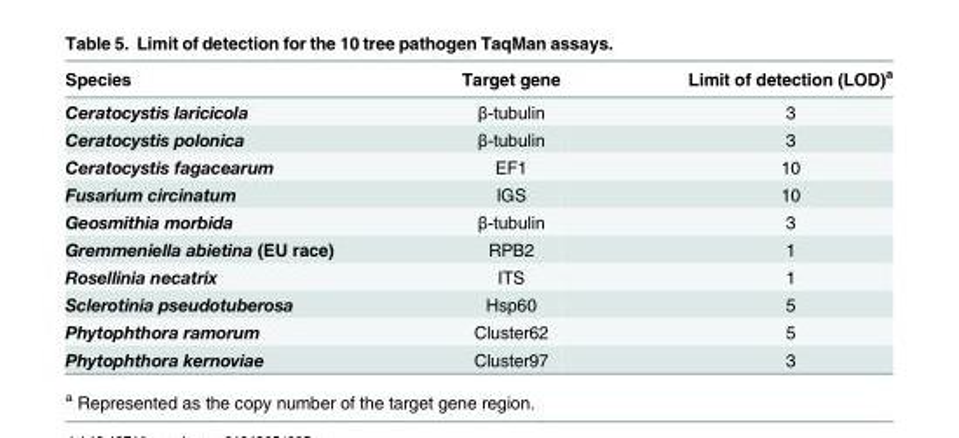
<table><thead><tr><td>Species</td><td>Target gene</td><td>Limit of detection (LOD)<sup>a</sup></td></tr></thead><tbody><tr><td>Ceratocystis laricicola</td><td>β-tubulin</td><td>3</td></tr><tr><td>Ceratocystis polonica</td><td>β-tubulin</td><td>3</td></tr><tr><td>Ceratocystis fagacearum</td><td>EF1</td><td>10</td></tr><tr><td>Fusarium circinatum</td><td>IGS</td><td>10</td></tr><tr><td>Geosmithia morbida</td><td>β-tubulin</td><td>3</td></tr><tr><td>Gremmeniella abietina (EU race)</td><td>RPB2</td><td>1</td></tr><tr><td>Rosellinia necatrix</td><td>ITS</td><td>1</td></tr><tr><td>Sclerotinia pseudotuberosa</td><td>Hsp60</td><td>5</td></tr><tr><td>Phytophthora ramorum</td><td>Cluster62</td><td>5</td></tr><tr><td>Phytophthora kernoviae</td><td>Cluster97</td><td>3</td></tr></tbody></table>